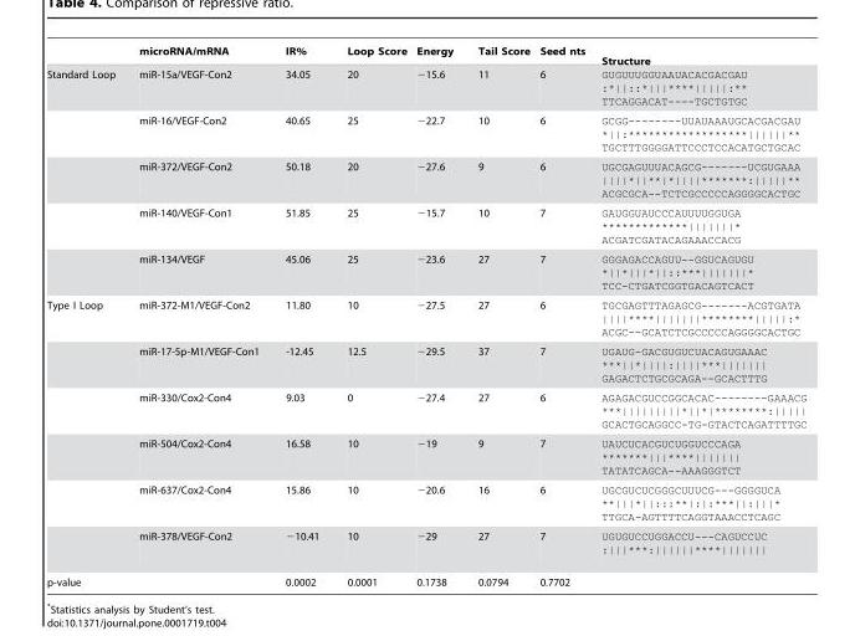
<table><thead><tr><td></td><td>microRNA/mRNA</td><td>IR%</td><td>Loop Score</td><td>Energy</td><td>Tail Score</td><td>Seed nts</td><td>Structure</td></tr></thead><tbody><tr><td rowspan="5">Standard Loop</td><td>miR-15a/VEGF-Con2</td><td>34.05</td><td>20</td><td>−15.6</td><td>11</td><td>6</td><td>GUGUUUGGUAAUACACGACGAU :*||::*|||****|||||:** TTCAGGACAT----TGCTGTGC</td></tr><tr><td>miR-16/VEGF-Con2</td><td>40.65</td><td>25</td><td>−22.7</td><td>10</td><td>6</td><td>GCGG--------UUAUAAAUGCACGACGAU *||:******************||||||** TGCTTTGGGGATTCCCTCCACATGCTGCAC</td></tr><tr><td>miR-372/VEGF-Con2</td><td>50.18</td><td>20</td><td>−27.6</td><td>9</td><td>6</td><td>UGCGAGUUUACAGCG-------UCGUGAAA ||||*||**|*||||*******:|||||** ACGCGCA--TCTCGCCCCCAGGGGCACTGC</td></tr><tr><td>miR-140/VEGF-Con1</td><td>51.85</td><td>25</td><td>−15.7</td><td>10</td><td>7</td><td>GAUGGUAUCCCAUUUUGGUGA *************|||||||* ACGATCGATACAGAAACCACG</td></tr><tr><td>miR-134/VEGF</td><td>45.06</td><td>25</td><td>−23.6</td><td>27</td><td>7</td><td>GGGAGACCAGUU--GGUCAGUGU *||*|||*||::***|||||||* TCC-CTGATCGGTGACAGTCACT</td></tr><tr><td rowspan="6">Type I Loop</td><td>miR-372-M1/VEGF-Con2</td><td>11.80</td><td>10</td><td>−27.5</td><td>27</td><td>6</td><td>TGCGAGTTTAGAGCG-------ACGTGATA ||||****|||||||********|||||:* ACGC--GCATCTCGCCCCCAGGGGCACTGC</td></tr><tr><td>miR-17-5p-M1/VEGF-Con1</td><td>-12.45</td><td>12.5</td><td>−29.5</td><td>37</td><td>7</td><td>UGAUG-GACGUGUCUACAGUGAAAC ***||*||||:||||***||||||| GAGACTCTGCGCAGA--GCACTTTG</td></tr><tr><td>miR-330/Cox2-Con4</td><td>9.03</td><td>0</td><td>−27.4</td><td>27</td><td>6</td><td>AGAGACGUCCGGCACAC--------GAAACG ***|||||||||*||*|********:||||| GCACTGCAGGCC-TG-GTACTCAGATTTTGC</td></tr><tr><td>miR-504/Cox2-Con4</td><td>16.58</td><td>10</td><td>−19</td><td>9</td><td>7</td><td>UAUCUCACGUCUGGUCCCAGA *******|||****||||||| TATATCAGCA--AAAGGGTCT</td></tr><tr><td>miR-637/Cox2-Con4</td><td>15.86</td><td>10</td><td>−20.6</td><td>16</td><td>6</td><td>UGCGUCUCGGGCUUUCG---GGGGUCA **|||*||:::**|:|:***||:|||* TTGCA-AGTTTTCAGGTAAACCTCAGC</td></tr><tr><td>miR-378/VEGF-Con2</td><td>−10.41</td><td>10</td><td>−29</td><td>27</td><td>7</td><td>UGUGUCCUGGACCU---CAGUCCUC :|||***:||||||****|||||||</td></tr><tr><td>p-value</td><td></td><td>0.0002</td><td>0.0001</td><td>0.1738</td><td>0.0794</td><td>0.7702</td><td></td></tr></tbody></table>